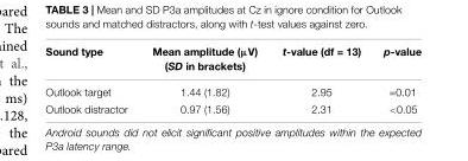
<table><thead><tr><td>Sound type</td><td>Mean amplitude (µV) (SD in brackets)</td><td>t-value (df = 13)</td><td>p-value</td></tr></thead><tbody><tr><td>Outlook target</td><td>1.44 (1.82)</td><td>2.95</td><td>=0.01</td></tr><tr><td>Outlook distractor</td><td>0.97 (1.56)</td><td>2.31</td><td>&lt;0.05</td></tr></tbody></table>